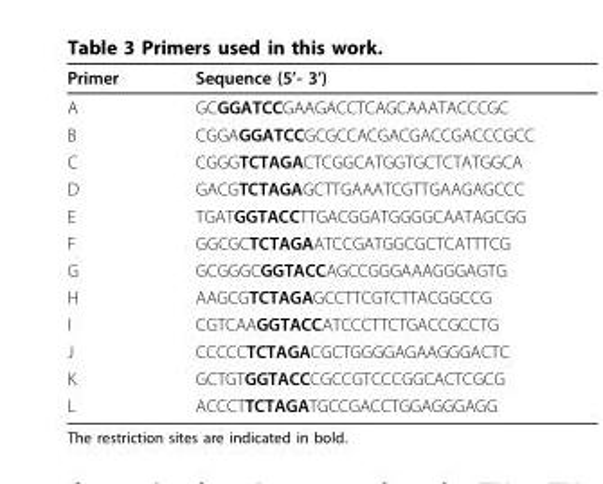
<table><thead><tr><td>Primer</td><td>Sequence (5’- 3’)</td></tr></thead><tbody><tr><td>A</td><td>GCGGATCCGAAGACCTCAGCAAATACCCGC</td></tr><tr><td>B</td><td>CGGAGGATCCGCGCCACGACGACCGACCCGCC</td></tr><tr><td>C</td><td>CGGGTCTAGACTCGGCATGGTGCTCTATGGCA</td></tr><tr><td>D</td><td>GACGTCTAGAGCTTGAAATCGTTGAAGAGCCC</td></tr><tr><td>E</td><td>TGATGGTACCTTGACGGATGGGGCAATAGCGG</td></tr><tr><td>F</td><td>GGCGCTCTAGAATCCGATGGCGCTCATTTCG</td></tr><tr><td>G</td><td>GCGGGCGGTACCAGCCGGGAAAGGGAGTG</td></tr><tr><td>H</td><td>AAGCGTCTAGAGCCTTCGTCTTACGGCCG</td></tr><tr><td>I</td><td>CGTCAAGGTACCATCCCTTCTGACCGCCTG</td></tr><tr><td>J</td><td>CCCCCTCTAGACGCTGGGGAGAAGGGACTC</td></tr><tr><td>K</td><td>GCTGTGGTACCCGCCGTCCCGGCACTCGCG</td></tr><tr><td>L</td><td>ACCCTTCTAGATGCCGACCTGGAGGGAGG</td></tr></tbody></table>